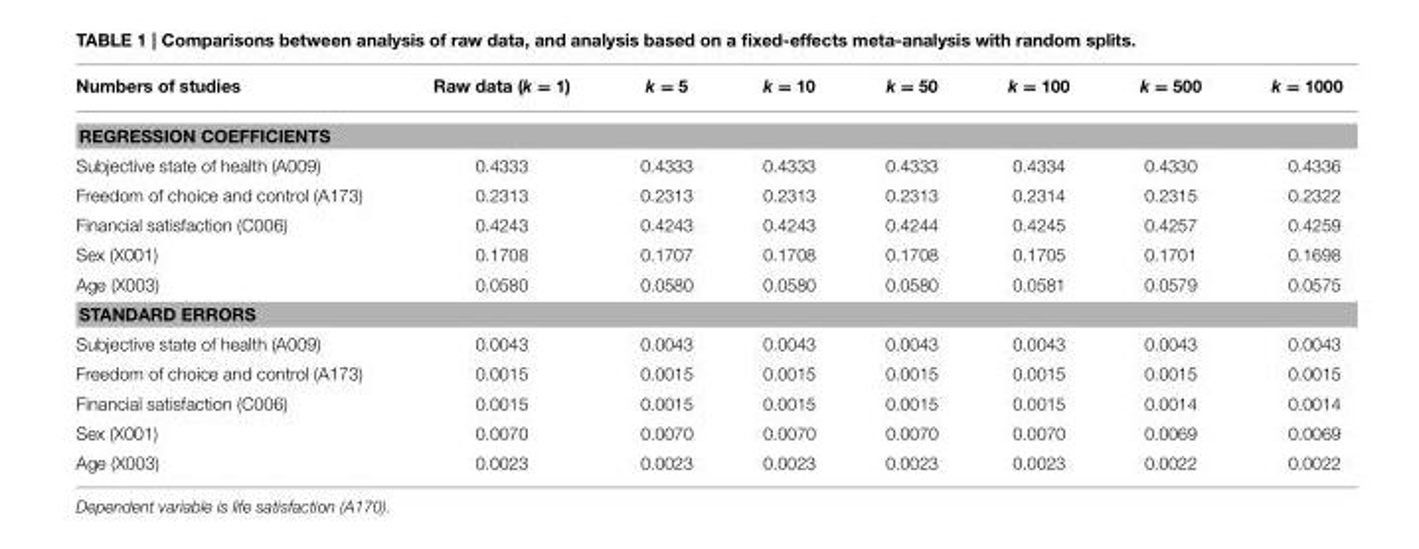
<table><thead><tr><td>Numbers of studies</td><td>Raw data (k = 1)</td><td>k = 5</td><td>k = 10</td><td>k = 50</td><td>k = 100</td><td>k = 500</td><td>k = 1000</td></tr></thead><tbody><tr><td colspan="8">REGRESSION COEFFICIENTS</td></tr><tr><td>Subjective state of health (A009)</td><td>0.4333</td><td>0.4333</td><td>0.4333</td><td>0.4333</td><td>0.4334</td><td>0.4330</td><td>0.4336</td></tr><tr><td>Freedom of choice and control (A173)</td><td>0.2313</td><td>0.2313</td><td>0.2313</td><td>0.2313</td><td>0.2314</td><td>0.2315</td><td>0.2322</td></tr><tr><td>Financial satisfaction (C006)</td><td>0.4243</td><td>0.4243</td><td>0.4243</td><td>0.4244</td><td>0.4245</td><td>0.4257</td><td>0.4259</td></tr><tr><td>Sex (X001)</td><td>0.1708</td><td>0.1707</td><td>0.1708</td><td>0.1708</td><td>0.1705</td><td>0.1701</td><td>0.1698</td></tr><tr><td>Age (X003)</td><td>0.0580</td><td>0.0580</td><td>0.0580</td><td>0.0580</td><td>0.0581</td><td>0.0579</td><td>0.0575</td></tr><tr><td colspan="8">STANDARD ERRORS</td></tr><tr><td>Subjective state of health (A009)</td><td>0.0043</td><td>0.0043</td><td>0.0043</td><td>0.0043</td><td>0.0043</td><td>0.0043</td><td>0.0043</td></tr><tr><td>Freedom of choice and control (A173)</td><td>0.0015</td><td>0.0015</td><td>0.0015</td><td>0.0015</td><td>0.0015</td><td>0.0015</td><td>0.0015</td></tr><tr><td>Financial satisfaction (C006)</td><td>0.0015</td><td>0.0015</td><td>0.0015</td><td>0.0015</td><td>0.0015</td><td>0.0014</td><td>0.0014</td></tr><tr><td>Sex (X001)</td><td>0.0070</td><td>0.0070</td><td>0.0070</td><td>0.0070</td><td>0.0070</td><td>0.0069</td><td>0.0069</td></tr><tr><td>Age (X003)</td><td>0.0023</td><td>0.0023</td><td>0.0023</td><td>0.0023</td><td>0.0023</td><td>0.0022</td><td>0.0022</td></tr></tbody></table>